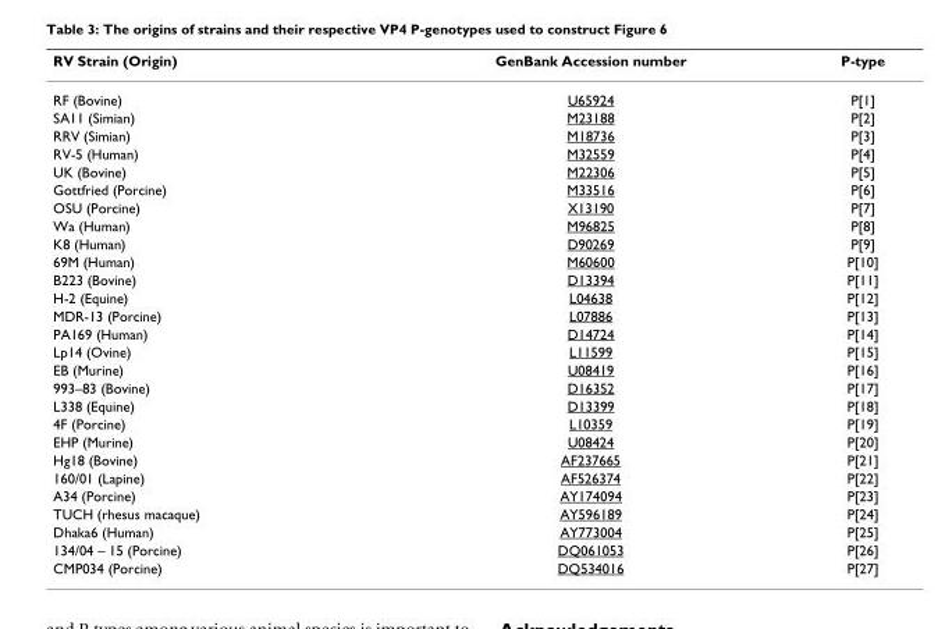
<table><thead><tr><td>RV Strain (Origin)</td><td>GenBank Accession number</td><td>P-type</td></tr></thead><tbody><tr><td>RF (Bovine)</td><td>U65924</td><td>P[1]</td></tr><tr><td>SA11 (Simian)</td><td>M23188</td><td>P[2]</td></tr><tr><td>RRV (Simian)</td><td>M18736</td><td>P[3]</td></tr><tr><td>RV-5 (Human)</td><td>M32559</td><td>P[4]</td></tr><tr><td>UK (Bovine)</td><td>M22306</td><td>P[5]</td></tr><tr><td>Gottfried (Porcine)</td><td>M33516</td><td>P[6]</td></tr><tr><td>OSU (Porcine)</td><td>X13190</td><td>P[7]</td></tr><tr><td>Wa (Human)</td><td>M96825</td><td>P[8]</td></tr><tr><td>K8 (Human)</td><td>D90269</td><td>P[9]</td></tr><tr><td>69M (Human)</td><td>M60600</td><td>P[10]</td></tr><tr><td>B223 (Bovine)</td><td>D13394</td><td>P[11]</td></tr><tr><td>H-2 (Equine)</td><td>L04638</td><td>P[12]</td></tr><tr><td>MDR-13 (Porcine)</td><td>L07886</td><td>P[13]</td></tr><tr><td>PA169 (Human)</td><td>D14724</td><td>P[14]</td></tr><tr><td>Lp14 (Ovine)</td><td>L11599</td><td>P[15]</td></tr><tr><td>EB (Murine)</td><td>U08419</td><td>P[16]</td></tr><tr><td>993–83 (Bovine)</td><td>D16352</td><td>P[17]</td></tr><tr><td>L338 (Equine)</td><td>D13399</td><td>P[18]</td></tr><tr><td>4F (Porcine)</td><td>L10359</td><td>P[19]</td></tr><tr><td>EHP (Murine)</td><td>U08424</td><td>P[20]</td></tr><tr><td>Hg18 (Bovine)</td><td>AF237665</td><td>P[21]</td></tr><tr><td>160/01 (Lapine)</td><td>AF526374</td><td>P[22]</td></tr><tr><td>A34 (Porcine)</td><td>AY174094</td><td>P[23]</td></tr><tr><td>TUCH (rhesus macaque)</td><td>AY596189</td><td>P[24]</td></tr><tr><td>Dhaka6 (Human)</td><td>AY773004</td><td>P[25]</td></tr><tr><td>134/04 – 15 (Porcine)</td><td>DQ061053</td><td>P[26]</td></tr><tr><td>CMP034 (Porcine)</td><td>DQ534016</td><td>P[27]</td></tr></tbody></table>